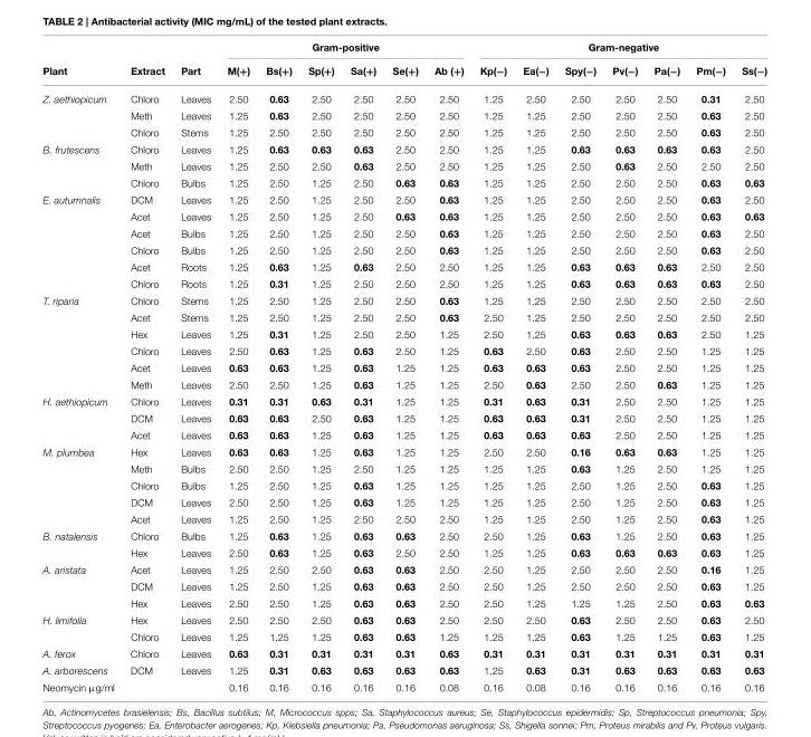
<table><thead><tr><td rowspan="2">Plant</td><td rowspan="2">Extract</td><td rowspan="2">Part</td><td colspan="6">Gram-positive</td><td colspan="7">Gram-negative</td></tr><tr><td>M(+)</td><td>Bs(+)</td><td>Sp(+)</td><td>Sa(+)</td><td>Se(+)</td><td>Ab (+)</td><td>Kp(−)</td><td>Ea(−)</td><td>Spy(−)</td><td>Pv(−)</td><td>Pa(−)</td><td>Pm(−)</td><td>Ss(−)</td></tr></thead><tbody><tr><td rowspan="3">Z. aethiopicum</td><td>Chloro</td><td>Leaves</td><td>2.50</td><td>0.63</td><td>2.50</td><td>2.50</td><td>2.50</td><td>2.50</td><td>1.25</td><td>2.50</td><td>2.50</td><td>2.50</td><td>2.50</td><td>0.31</td><td>2.50</td></tr><tr><td>Meth</td><td>Leaves</td><td>1.25</td><td>0.63</td><td>2.50</td><td>2.50</td><td>2.50</td><td>2.50</td><td>1.25</td><td>1.25</td><td>2.50</td><td>2.50</td><td>2.50</td><td>0.63</td><td>2.50</td></tr><tr><td>Chloro</td><td>Stems</td><td>1.25</td><td>2.50</td><td>2.50</td><td>2.50</td><td>2.50</td><td>2.50</td><td>1.25</td><td>1.25</td><td>2.50</td><td>2.50</td><td>2.50</td><td>0.63</td><td>2.50</td></tr><tr><td rowspan="3">B. frutescens</td><td>Chloro</td><td>Leaves</td><td>1.25</td><td>0.63</td><td>0.63</td><td>0.63</td><td>2.50</td><td>2.50</td><td>1.25</td><td>1.25</td><td>0.63</td><td>0.63</td><td>0.63</td><td>0.63</td><td>2.50</td></tr><tr><td>Meth</td><td>Leaves</td><td>1.25</td><td>2.50</td><td>2.50</td><td>0.63</td><td>2.50</td><td>2.50</td><td>1.25</td><td>1.25</td><td>2.50</td><td>0.63</td><td>2.50</td><td>2.50</td><td>2.50</td></tr><tr><td>Chloro</td><td>Bulbs</td><td>1.25</td><td>2.50</td><td>1.25</td><td>2.50</td><td>0.63</td><td>0.63</td><td>1.25</td><td>1.25</td><td>2.50</td><td>2.50</td><td>2.50</td><td>0.63</td><td>0.63</td></tr><tr><td rowspan="6">E. autumnalis</td><td>DCM</td><td>Leaves</td><td>1.25</td><td>2.50</td><td>1.25</td><td>2.50</td><td>2.50</td><td>0.63</td><td>1.25</td><td>1.25</td><td>2.50</td><td>2.50</td><td>2.50</td><td>0.63</td><td>2.50</td></tr><tr><td>Acet</td><td>Leaves</td><td>1.25</td><td>2.50</td><td>1.25</td><td>2.50</td><td>0.63</td><td>0.63</td><td>1.25</td><td>1.25</td><td>2.50</td><td>2.50</td><td>2.50</td><td>0.63</td><td>0.63</td></tr><tr><td>Acet</td><td>Bulbs</td><td>1.25</td><td>2.50</td><td>1.25</td><td>2.50</td><td>2.50</td><td>0.63</td><td>1.25</td><td>1.25</td><td>2.50</td><td>2.50</td><td>2.50</td><td>0.63</td><td>2.50</td></tr><tr><td>Chloro</td><td>Bulbs</td><td>1.25</td><td>2.50</td><td>1.25</td><td>2.50</td><td>2.50</td><td>0.63</td><td>1.25</td><td>1.25</td><td>2.50</td><td>2.50</td><td>2.50</td><td>0.63</td><td>2.50</td></tr><tr><td>Acet</td><td>Roots</td><td>1.25</td><td>0.63</td><td>1.25</td><td>0.63</td><td>2.50</td><td>2.50</td><td>1.25</td><td>1.25</td><td>0.63</td><td>0.63</td><td>0.63</td><td>2.50</td><td>2.50</td></tr><tr><td>Chloro</td><td>Roots</td><td>1.25</td><td>0.31</td><td>1.25</td><td>2.50</td><td>2.50</td><td>2.50</td><td>1.25</td><td>1.25</td><td>0.63</td><td>0.63</td><td>0.63</td><td>0.63</td><td>2.50</td></tr><tr><td rowspan="6">T. riparia</td><td>Chloro</td><td>Stems</td><td>1.25</td><td>2.50</td><td>1.25</td><td>2.50</td><td>2.50</td><td>0.63</td><td>1.25</td><td>1.25</td><td>2.50</td><td>2.50</td><td>2.50</td><td>2.50</td><td>2.50</td></tr><tr><td>Acet</td><td>Stems</td><td>1.25</td><td>2.50</td><td>1.25</td><td>2.50</td><td>2.50</td><td>0.63</td><td>2.50</td><td>1.25</td><td>2.50</td><td>2.50</td><td>2.50</td><td>2.50</td><td>2.50</td></tr><tr><td>Hex</td><td>Leaves</td><td>1.25</td><td>0.31</td><td>1.25</td><td>2.50</td><td>2.50</td><td>1.25</td><td>2.50</td><td>1.25</td><td>0.63</td><td>0.63</td><td>0.63</td><td>2.50</td><td>1.25</td></tr><tr><td>Chloro</td><td>Leaves</td><td>2.50</td><td>0.63</td><td>1.25</td><td>0.63</td><td>2.50</td><td>1.25</td><td>0.63</td><td>2.50</td><td>0.63</td><td>2.50</td><td>2.50</td><td>1.25</td><td>1.25</td></tr><tr><td>Acet</td><td>Leaves</td><td>0.63</td><td>0.63</td><td>1.25</td><td>0.63</td><td>1.25</td><td>1.25</td><td>0.63</td><td>0.63</td><td>0.63</td><td>2.50</td><td>2.50</td><td>1.25</td><td>1.25</td></tr><tr><td>Meth</td><td>Leaves</td><td>2.50</td><td>2.50</td><td>1.25</td><td>0.63</td><td>1.25</td><td>1.25</td><td>2.50</td><td>0.63</td><td>2.50</td><td>2.50</td><td>0.63</td><td>1.25</td><td>1.25</td></tr><tr><td rowspan="3">H. aethiopicum</td><td>Chloro</td><td>Leaves</td><td>0.31</td><td>0.31</td><td>0.63</td><td>0.31</td><td>1.25</td><td>1.25</td><td>0.31</td><td>0.63</td><td>0.31</td><td>2.50</td><td>2.50</td><td>1.25</td><td>1.25</td></tr><tr><td>DCM</td><td>Leaves</td><td>0.63</td><td>0.63</td><td>2.50</td><td>0.63</td><td>1.25</td><td>1.25</td><td>0.63</td><td>0.63</td><td>0.31</td><td>2.50</td><td>2.50</td><td>1.25</td><td>1.25</td></tr><tr><td>Acet</td><td>Leaves</td><td>0.63</td><td>0.63</td><td>1.25</td><td>0.63</td><td>1.25</td><td>1.25</td><td>0.63</td><td>0.63</td><td>0.63</td><td>2.50</td><td>2.50</td><td>1.25</td><td>1.25</td></tr><tr><td rowspan="5">M. plumbea</td><td>Hex</td><td>Leaves</td><td>0.63</td><td>0.63</td><td>1.25</td><td>0.63</td><td>1.25</td><td>1.25</td><td>2.50</td><td>2.50</td><td>0.16</td><td>0.63</td><td>0.63</td><td>1.25</td><td>1.25</td></tr><tr><td>Meth</td><td>Bulbs</td><td>2.50</td><td>2.50</td><td>1.25</td><td>2.50</td><td>1.25</td><td>1.25</td><td>1.25</td><td>1.25</td><td>0.63</td><td>1.25</td><td>2.50</td><td>1.25</td><td>1.25</td></tr><tr><td>Chloro</td><td>Bulbs</td><td>1.25</td><td>2.50</td><td>1.25</td><td>0.63</td><td>1.25</td><td>1.25</td><td>1.25</td><td>1.25</td><td>2.50</td><td>1.25</td><td>2.50</td><td>0.63</td><td>1.25</td></tr><tr><td>DCM</td><td>Leaves</td><td>2.50</td><td>2.50</td><td>1.25</td><td>0.63</td><td>1.25</td><td>1.25</td><td>1.25</td><td>1.25</td><td>2.50</td><td>1.25</td><td>2.50</td><td>0.63</td><td>1.25</td></tr><tr><td>Acet</td><td>Leaves</td><td>1.25</td><td>2.50</td><td>1.25</td><td>2.50</td><td>2.50</td><td>2.50</td><td>1.25</td><td>1.25</td><td>2.50</td><td>1.25</td><td>2.50</td><td>0.63</td><td>1.25</td></tr><tr><td rowspan="2">B. natalensis</td><td>Chloro</td><td>Bulbs</td><td>1.25</td><td>0.63</td><td>1.25</td><td>0.63</td><td>0.63</td><td>2.50</td><td>2.50</td><td>1.25</td><td>0.63</td><td>1.25</td><td>2.50</td><td>0.63</td><td>1.25</td></tr><tr><td>Hex</td><td>Leaves</td><td>2.50</td><td>0.63</td><td>1.25</td><td>0.63</td><td>2.50</td><td>2.50</td><td>1.25</td><td>1.25</td><td>0.63</td><td>0.63</td><td>0.63</td><td>0.63</td><td>1.25</td></tr><tr><td rowspan="3">A. aristata</td><td>Acet</td><td>Leaves</td><td>1.25</td><td>2.50</td><td>2.50</td><td>0.63</td><td>0.63</td><td>2.50</td><td>2.50</td><td>1.25</td><td>2.50</td><td>2.50</td><td>2.50</td><td>0.16</td><td>1.25</td></tr><tr><td>DCM</td><td>Leaves</td><td>1.25</td><td>2.50</td><td>1.25</td><td>0.63</td><td>0.63</td><td>2.50</td><td>2.50</td><td>1.25</td><td>2.50</td><td>2.50</td><td>2.50</td><td>0.63</td><td>1.25</td></tr><tr><td>Hex</td><td>Leaves</td><td>2.50</td><td>2.50</td><td>1.25</td><td>0.63</td><td>0.63</td><td>2.50</td><td>2.50</td><td>1.25</td><td>1.25</td><td>1.25</td><td>2.50</td><td>0.63</td><td>0.63</td></tr><tr><td rowspan="2">H. limifolia</td><td>Hex</td><td>Leaves</td><td>2.50</td><td>2.50</td><td>2.50</td><td>0.63</td><td>0.63</td><td>2.50</td><td>2.50</td><td>2.50</td><td>0.63</td><td>2.50</td><td>2.50</td><td>0.63</td><td>2.50</td></tr><tr><td>Chloro</td><td>Leaves</td><td>1.25</td><td>1.25</td><td>1.25</td><td>0.63</td><td>0.63</td><td>1.25</td><td>1.25</td><td>1.25</td><td>0.63</td><td>1.25</td><td>1.25</td><td>0.63</td><td>1.25</td></tr><tr><td>A. ferox</td><td>Chloro</td><td>Leaves</td><td>0.63</td><td>0.31</td><td>0.31</td><td>0.31</td><td>0.31</td><td>0.63</td><td>0.31</td><td>0.31</td><td>0.31</td><td>0.31</td><td>0.31</td><td>0.31</td><td>0.31</td></tr><tr><td>A. arborescens</td><td>DCM</td><td>Leaves</td><td>1.25</td><td>0.31</td><td>0.63</td><td>0.63</td><td>0.63</td><td>0.63</td><td>1.25</td><td>0.63</td><td>0.31</td><td>0.63</td><td>0.63</td><td>0.63</td><td>0.63</td></tr><tr><td>Neomycin µg/ml</td><td></td><td></td><td>0.16</td><td>0.16</td><td>0.16</td><td>0.16</td><td>0.16</td><td>0.08</td><td>0.16</td><td>0.08</td><td>0.16</td><td>0.16</td><td>0.16</td><td>0.16</td><td>0.16</td></tr></tbody></table>